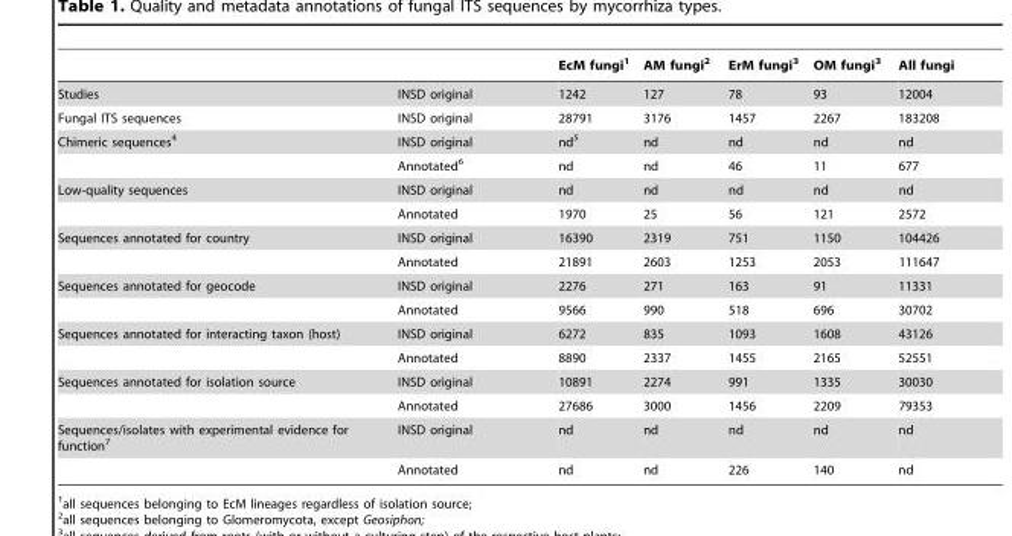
<table><thead><tr><td></td><td></td><td>EcM fungi<sup>1</sup></td><td>AM fungi<sup>2</sup></td><td>ErM fungi<sup>3</sup></td><td>OM fungi<sup>3</sup></td><td>All fungi</td></tr></thead><tbody><tr><td>Studies</td><td>INSD original</td><td>1242</td><td>127</td><td>78</td><td>93</td><td>12004</td></tr><tr><td>Fungal ITS sequences</td><td>INSD original</td><td>28791</td><td>3176</td><td>1457</td><td>2267</td><td>183208</td></tr><tr><td rowspan="2">Chimeric sequences<sup>4</sup></td><td>INSD original</td><td>nd<sup>5</sup></td><td>nd</td><td>nd</td><td>nd</td><td>nd</td></tr><tr><td>Annotated<sup>6</sup></td><td>nd</td><td>nd</td><td>46</td><td>11</td><td>677</td></tr><tr><td rowspan="2">Low-quality sequences</td><td>INSD original</td><td>nd</td><td>nd</td><td>nd</td><td>nd</td><td>nd</td></tr><tr><td>Annotated</td><td>1970</td><td>25</td><td>56</td><td>121</td><td>2572</td></tr><tr><td rowspan="2">Sequences annotated for country</td><td>INSD original</td><td>16390</td><td>2319</td><td>751</td><td>1150</td><td>104426</td></tr><tr><td>Annotated</td><td>21891</td><td>2603</td><td>1253</td><td>2053</td><td>111647</td></tr><tr><td rowspan="2">Sequences annotated for geocode</td><td>INSD original</td><td>2276</td><td>271</td><td>163</td><td>91</td><td>11331</td></tr><tr><td>Annotated</td><td>9566</td><td>990</td><td>518</td><td>696</td><td>30702</td></tr><tr><td rowspan="2">Sequences annotated for interacting taxon (host)</td><td>INSD original</td><td>6272</td><td>835</td><td>1093</td><td>1608</td><td>43126</td></tr><tr><td>Annotated</td><td>8890</td><td>2337</td><td>1455</td><td>2165</td><td>52551</td></tr><tr><td rowspan="2">Sequences annotated for isolation source</td><td>INSD original</td><td>10891</td><td>2274</td><td>991</td><td>1335</td><td>30030</td></tr><tr><td>Annotated</td><td>27686</td><td>3000</td><td>1456</td><td>2209</td><td>79353</td></tr><tr><td rowspan="2">Sequences/isolates with experimental evidence for function<sup>7</sup></td><td>INSD original</td><td>nd</td><td>nd</td><td>nd</td><td>nd</td><td>nd</td></tr><tr><td>Annotated</td><td>nd</td><td>nd</td><td>226</td><td>140</td><td>nd</td></tr></tbody></table>